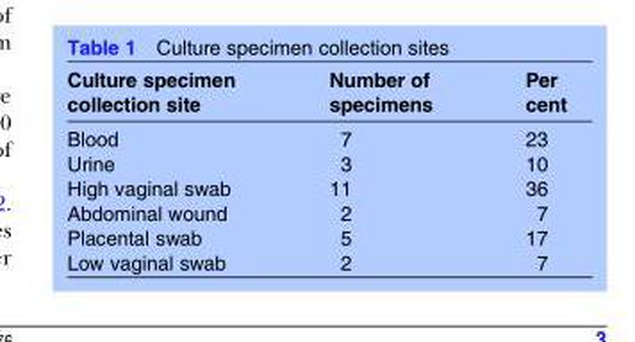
<table><thead><tr><td>Culture specimen collection site</td><td>Number of specimens</td><td>Per cent</td></tr></thead><tbody><tr><td>Blood</td><td>7</td><td>23</td></tr><tr><td>Urine</td><td>3</td><td>10</td></tr><tr><td>High vaginal swab</td><td>11</td><td>36</td></tr><tr><td>Abdominal wound</td><td>2</td><td>7</td></tr><tr><td>Placental swab</td><td>5</td><td>17</td></tr><tr><td>Low vaginal swab</td><td>2</td><td>7</td></tr></tbody></table>